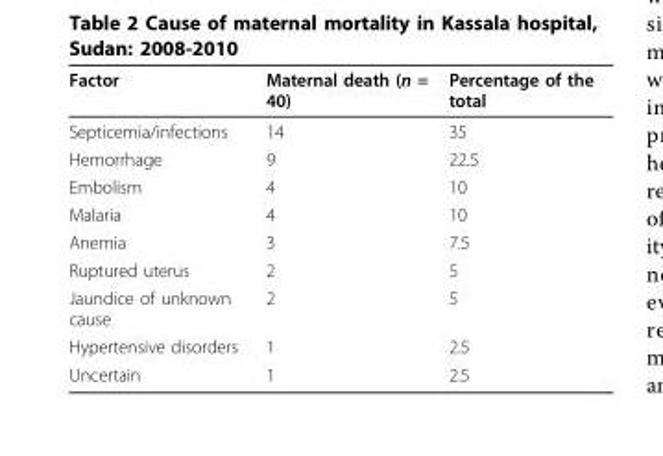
<table><thead><tr><td>Factor</td><td>Maternal death (n = 40)</td><td>Percentage of the total</td></tr></thead><tbody><tr><td>Septicemia/infections</td><td>14</td><td>35</td></tr><tr><td>Hemorrhage</td><td>9</td><td>22.5</td></tr><tr><td>Embolism</td><td>4</td><td>10</td></tr><tr><td>Malaria</td><td>4</td><td>10</td></tr><tr><td>Anemia</td><td>3</td><td>7.5</td></tr><tr><td>Ruptured uterus</td><td>2</td><td>5</td></tr><tr><td>Jaundice of unknown cause</td><td>2</td><td>5</td></tr><tr><td>Hypertensive disorders</td><td>1</td><td>2.5</td></tr><tr><td>Uncertain</td><td>1</td><td>2.5</td></tr></tbody></table>